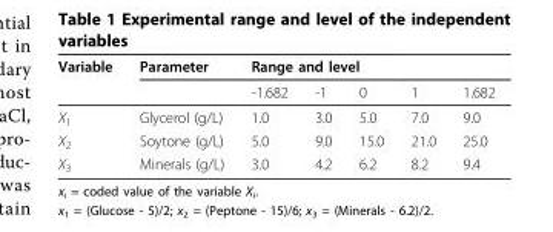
<table><thead><tr><td rowspan="2">Variable</td><td rowspan="2">Parameter</td><td colspan="5">Range and level</td></tr><tr><td>-1.682</td><td>-1</td><td>0</td><td>1</td><td>1.682</td></tr></thead><tbody><tr><td>X<sub>1</sub></td><td>Glycerol (g/L)</td><td>1.0</td><td>3.0</td><td>5.0</td><td>7.0</td><td>9.0</td></tr><tr><td>X<sub>2</sub></td><td>Soytone (g/L)</td><td>5.0</td><td>9.0</td><td>15.0</td><td>21.0</td><td>25.0</td></tr><tr><td>X<sub>3</sub></td><td>Minerals (g/L)</td><td>3.0</td><td>4.2</td><td>6.2</td><td>8.2</td><td>9.4</td></tr></tbody></table>